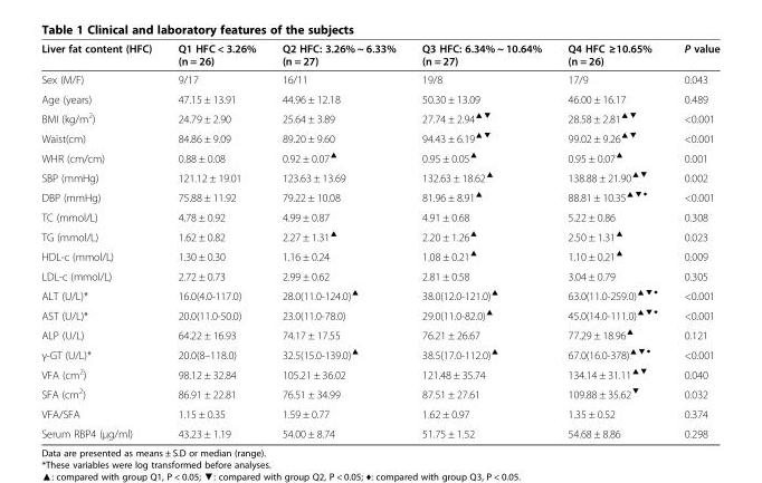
<table><thead><tr><td>Liver fat content (HFC)</td><td>Q1 HFC &lt; 3.26% (n = 26)</td><td>Q2 HFC: 3.26% ~ 6.33% (n = 27)</td><td>Q3 HFC: 6.34% ~ 10.64% (n = 27)</td><td>Q4 HFC ≥10.65% (n = 26)</td><td>P value</td></tr></thead><tbody><tr><td>Sex (M/F)</td><td>9/17</td><td>16/11</td><td>19/8</td><td>17/9</td><td>0.043</td></tr><tr><td>Age (years)</td><td>47.15 ± 13.91</td><td>44.96 ± 12.18</td><td>50.30 ± 13.09</td><td>46.00 ± 16.17</td><td>0.489</td></tr><tr><td>BMI (kg/m<sup>2</sup>)</td><td>24.79 ± 2.90</td><td>25.64 ± 3.89</td><td>27.74 ± 2.94<sup>▲▼</sup></td><td>28.58 ± 2.81<sup>▲▼</sup></td><td>&lt;0.001</td></tr><tr><td>Waist(cm)</td><td>84.86 ± 9.09</td><td>89.20 ± 9.60</td><td>94.43 ± 6.19<sup>▲▼</sup></td><td>99.02 ± 9.26<sup>▲▼</sup></td><td>&lt;0.001</td></tr><tr><td>WHR (cm/cm)</td><td>0.88 ± 0.08</td><td>0.92 ± 0.07<sup>▲</sup></td><td>0.95 ± 0.05<sup>▲</sup></td><td>0.95 ± 0.07<sup>▲</sup></td><td>0.001</td></tr><tr><td>SBP (mmHg)</td><td>121.12 ± 19.01</td><td>123.63 ± 13.69</td><td>132.63 ± 18.62<sup>▲</sup></td><td>138.88 ± 21.90<sup>▲▼</sup></td><td>0.002</td></tr><tr><td>DBP (mmHg)</td><td>75.88 ± 11.92</td><td>79.22 ± 10.08</td><td>81.96 ± 8.91<sup>▲</sup></td><td>88.81 ± 10.35<sup>▲▼◆</sup></td><td>&lt;0.001</td></tr><tr><td>TC (mmol/L)</td><td>4.78 ± 0.92</td><td>4.99 ± 0.87</td><td>4.91 ± 0.68</td><td>5.22 ± 0.86</td><td>0.308</td></tr><tr><td>TG (mmol/L)</td><td>1.62 ± 0.82</td><td>2.27 ± 1.31<sup>▲</sup></td><td>2.20 ± 1.26<sup>▲</sup></td><td>2.50 ± 1.31<sup>▲</sup></td><td>0.023</td></tr><tr><td>HDL-c (mmol/L)</td><td>1.30 ± 0.30</td><td>1.16 ± 0.24</td><td>1.08 ± 0.21<sup>▲</sup></td><td>1.10 ± 0.21<sup>▲</sup></td><td>0.009</td></tr><tr><td>LDL-c (mmol/L)</td><td>2.72 ± 0.73</td><td>2.99 ± 0.62</td><td>2.81 ± 0.58</td><td>3.04 ± 0.79</td><td>0.305</td></tr><tr><td>ALT (U/L)*</td><td>16.0(4.0-117.0)</td><td>28.0(11.0-124.0)<sup>▲</sup></td><td>38.0(12.0-121.0)<sup>▲</sup></td><td>63.0(11.0-259.0)<sup>▲▼◆</sup></td><td>&lt;0.001</td></tr><tr><td>AST (U/L)*</td><td>20.0(11.0-50.0)</td><td>23.0(11.0-78.0)</td><td>29.0(11.0-82.0)<sup>▲</sup></td><td>45.0(14.0-111.0)<sup>▲▼◆</sup></td><td>&lt;0.001</td></tr><tr><td>ALP (U/L)</td><td>64.22 ± 16.93</td><td>74.17 ± 17.55</td><td>76.21 ± 26.67</td><td>77.29 ± 18.96<sup>▲</sup></td><td>0.121</td></tr><tr><td>γ-GT (U/L)*</td><td>20.0(8–118.0)</td><td>32.5(15.0-139.0)<sup>▲</sup></td><td>38.5(17.0-112.0)<sup>▲</sup></td><td>67.0(16.0-378)<sup>▲▼◆</sup></td><td>&lt;0.001</td></tr><tr><td>VFA (cm<sup>2</sup>)</td><td>98.12 ± 32.84</td><td>105.21 ± 36.02</td><td>121.48 ± 35.74</td><td>134.14 ± 31.11<sup>▲▼</sup></td><td>0.040</td></tr><tr><td>SFA (cm<sup>2</sup>)</td><td>86.91 ± 22.81</td><td>76.51 ± 34.99</td><td>87.51 ± 27.61</td><td>109.88 ± 35.62<sup>▼</sup></td><td>0.032</td></tr><tr><td>VFA/SFA</td><td>1.15 ± 0.35</td><td>1.59 ± 0.77</td><td>1.62 ± 0.97</td><td>1.35 ± 0.52</td><td>0.374</td></tr><tr><td>Serum RBP4 (μg/ml)</td><td>43.23 ± 1.19</td><td>54.00 ± 8.74</td><td>51.75 ± 1.52</td><td>54.68 ± 8.86</td><td>0.298</td></tr></tbody></table>